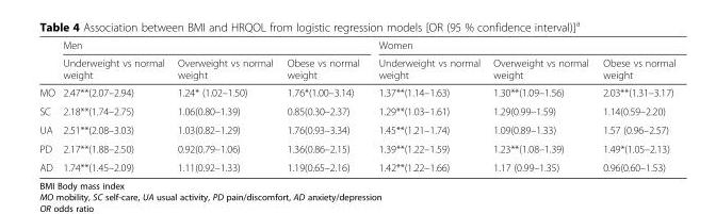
<table><thead><tr><td rowspan="2"></td><td colspan="3">Men</td><td colspan="3">Women</td></tr><tr><td>Underweight vs normal weight</td><td>Overweight vs normal weight</td><td>Obese vs normal weight</td><td>Underweight vs normal weight</td><td>Overweight vs normal weight</td><td>Obese vs normal weight</td></tr></thead><tbody><tr><td>MO</td><td>2.47**(2.07–2.94)</td><td>1.24* (1.02–1.50)</td><td>1.76*(1.00–3.14)</td><td>1.37**(1.14–1.63)</td><td>1.30**(1.09–1.56)</td><td>2.03**(1.31–3.17)</td></tr><tr><td>SC</td><td>2.18**(1.74–2.75)</td><td>1.06(0.80–1.39)</td><td>0.85(0.30–2.37)</td><td>1.29**(1.03–1.61)</td><td>1.29(0.99–1.59)</td><td>1.14(0.59–2.20)</td></tr><tr><td>UA</td><td>2.51**(2.08–3.03)</td><td>1.03(0.82–1.29)</td><td>1.76(0.93–3.34)</td><td>1.45**(1.21–1.74)</td><td>1.09(0.89–1.33)</td><td>1.57 (0.96–2.57)</td></tr><tr><td>PD</td><td>2.17**(1.88–2.50)</td><td>0.92(0.79–1.06)</td><td>1.36(0.86–2.15)</td><td>1.39**(1.22–1.59)</td><td>1.23**(1.08–1.39)</td><td>1.49*(1.05–2.13)</td></tr><tr><td>AD</td><td>1.74**(1.45–2.09)</td><td>1.11(0.92–1.33)</td><td>1.19(0.65–2.16)</td><td>1.42**(1.22–1.66)</td><td>1.17 (0.99–1.35)</td><td>0.96(0.60–1.53)</td></tr></tbody></table>